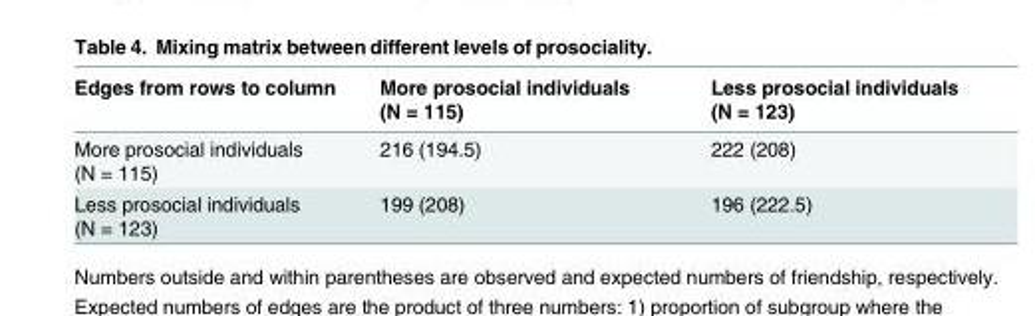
<table><thead><tr><td>Edges from rows to column</td><td>More prosocial individuals (N = 115)</td><td>Less prosocial individuals (N = 123)</td></tr></thead><tbody><tr><td>More prosocial individuals (N = 115)</td><td>216 (194.5)</td><td>222 (208)</td></tr><tr><td>Less prosocial individuals (N = 123)</td><td>199 (208)</td><td>196 (222.5)</td></tr></tbody></table>